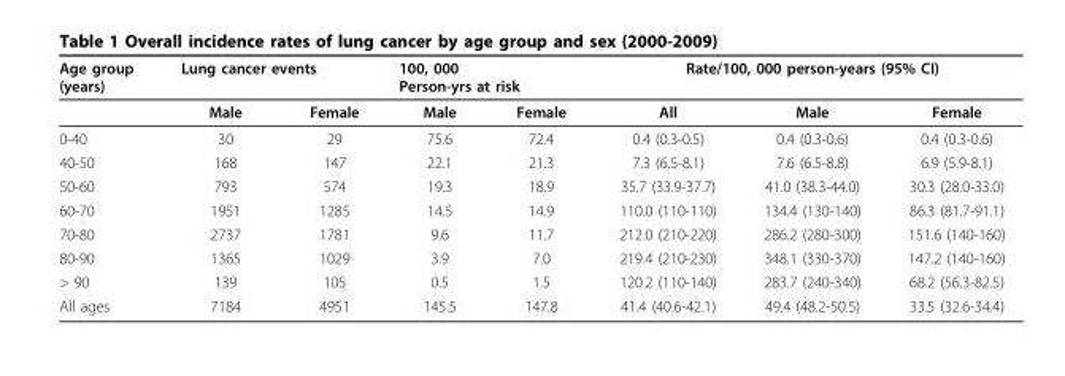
<table><thead><tr><td rowspan="2">Age group (years)</td><td colspan="2">Lung cancer events</td><td colspan="2">100, 000 Person-yrs at risk</td><td colspan="3">Rate/100, 000 person-years (95% CI)</td></tr><tr><td>Male</td><td>Female</td><td>Male</td><td>Female</td><td>All</td><td>Male</td><td>Female</td></tr></thead><tbody><tr><td>0-40</td><td>30</td><td>29</td><td>75.6</td><td>72.4</td><td>0.4 (0.3-0.5)</td><td>0.4 (0.3-0.6)</td><td>0.4 (0.3-0.6)</td></tr><tr><td>40-50</td><td>168</td><td>147</td><td>22.1</td><td>21.3</td><td>7.3 (6.5-8.1)</td><td>7.6 (6.5-8.8)</td><td>6.9 (5.9-8.1)</td></tr><tr><td>50-60</td><td>793</td><td>574</td><td>19.3</td><td>18.9</td><td>35.7 (33.9-37.7)</td><td>41.0 (38.3-44.0)</td><td>30.3 (28.0-33.0)</td></tr><tr><td>60-70</td><td>1951</td><td>1285</td><td>14.5</td><td>14.9</td><td>110.0 (110-110)</td><td>134.4 (130-140)</td><td>86.3 (81.7-91.1)</td></tr><tr><td>70-80</td><td>2737</td><td>1781</td><td>9.6</td><td>11.7</td><td>212.0 (210-220)</td><td>286.2 (280-300)</td><td>151.6 (140-160)</td></tr><tr><td>80-90</td><td>1365</td><td>1029</td><td>3.9</td><td>7.0</td><td>219.4 (210-230)</td><td>348.1 (330-370)</td><td>147.2 (140-160)</td></tr><tr><td>&gt; 90</td><td>139</td><td>105</td><td>0.5</td><td>1.5</td><td>120.2 (110-140)</td><td>283.7 (240-340)</td><td>68.2 (56.3-82.5)</td></tr><tr><td>All ages</td><td>7184</td><td>4951</td><td>145.5</td><td>147.8</td><td>41.4 (40.6-42.1)</td><td>49.4 (48.2-50.5)</td><td>33.5 (32.6-34.4)</td></tr></tbody></table>